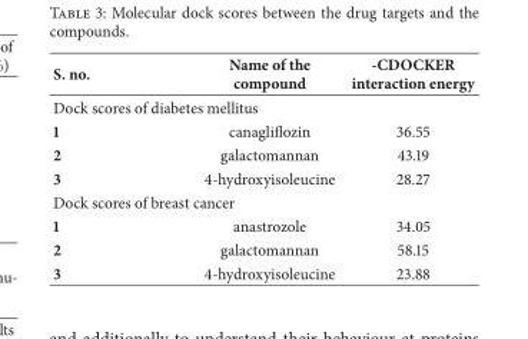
<table><thead><tr><td>S. no.</td><td>Name of the compound</td><td>-CDOCKER interaction energy</td></tr></thead><tbody><tr><td colspan="3">Dock scores of diabetes mellitus</td></tr><tr><td>1</td><td>canagliflozin</td><td>36.55</td></tr><tr><td>2</td><td>galactomannan</td><td>43.19</td></tr><tr><td>3</td><td>4-hydroxyisoleucine</td><td>28.27</td></tr><tr><td colspan="3">Dock scores of breast cancer</td></tr><tr><td>1</td><td>anastrozole</td><td>34.05</td></tr><tr><td>2</td><td>galactomannan</td><td>58.15</td></tr><tr><td>3</td><td>4-hydroxyisoleucine</td><td>23.88</td></tr></tbody></table>